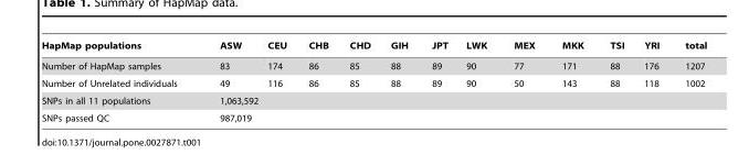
<table><thead><tr><td>HapMap populations</td><td>ASW</td><td>CEU</td><td>CHB</td><td>CHD</td><td>GIH</td><td>JPT</td><td>LWK</td><td>MEX</td><td>MKK</td><td>TSI</td><td>YRI</td><td>total</td></tr></thead><tbody><tr><td>Number of HapMap samples</td><td>83</td><td>174</td><td>86</td><td>85</td><td>88</td><td>89</td><td>90</td><td>77</td><td>171</td><td>88</td><td>176</td><td>1207</td></tr><tr><td>Number of Unrelated individuals</td><td>49</td><td>116</td><td>86</td><td>85</td><td>88</td><td>89</td><td>90</td><td>50</td><td>143</td><td>88</td><td>118</td><td>1002</td></tr><tr><td>SNPs in all 11 populations</td><td colspan="12">1,063,592</td></tr><tr><td>SNPs passed QC</td><td colspan="12">987,019</td></tr></tbody></table>